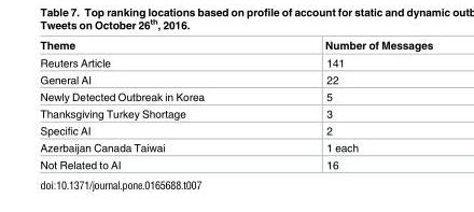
<table><thead><tr><td>Theme</td><td>Number of Messages</td></tr></thead><tbody><tr><td>Reuters Article</td><td>141</td></tr><tr><td>General AI</td><td>22</td></tr><tr><td>Newly Detected Outbreak in Korea</td><td>5</td></tr><tr><td>Thanksgiving Turkey Shortage</td><td>3</td></tr><tr><td>Specific AI</td><td>2</td></tr><tr><td>Azerbaijan Canada Taiwai</td><td>1 each</td></tr><tr><td>Not Related to AI</td><td>16</td></tr></tbody></table>